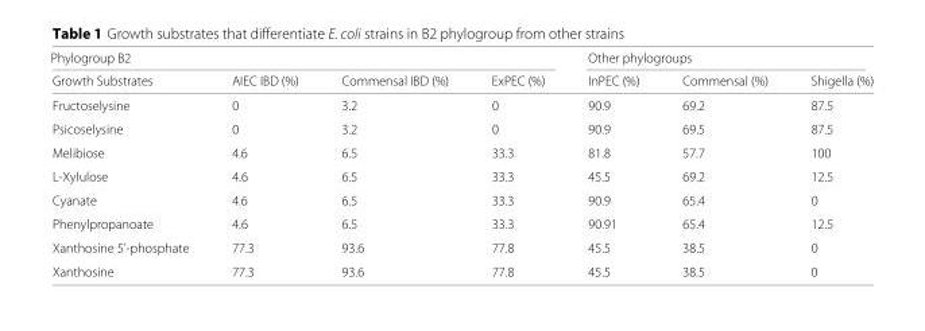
<table><thead><tr><td colspan="4">Phylogroup B2</td><td colspan="3">Other phylogroups</td></tr><tr><td>Growth Substrates</td><td>AIEC IBD (%)</td><td>Commensal IBD (%)</td><td>ExPEC (%)</td><td>InPEC (%)</td><td>Commensal (%)</td><td>Shigella (%)</td></tr></thead><tbody><tr><td>Fructoselysine</td><td>0</td><td>3.2</td><td>0</td><td>90.9</td><td>69.2</td><td>87.5</td></tr><tr><td>Psicoselysine</td><td>0</td><td>3.2</td><td>0</td><td>90.9</td><td>69.5</td><td>87.5</td></tr><tr><td>Melibiose</td><td>4.6</td><td>6.5</td><td>33.3</td><td>81.8</td><td>57.7</td><td>100</td></tr><tr><td>L-Xylulose</td><td>4.6</td><td>6.5</td><td>33.3</td><td>45.5</td><td>69.2</td><td>12.5</td></tr><tr><td>Cyanate</td><td>4.6</td><td>6.5</td><td>33.3</td><td>90.9</td><td>65.4</td><td>0</td></tr><tr><td>Phenylpropanoate</td><td>4.6</td><td>6.5</td><td>33.3</td><td>90.91</td><td>65.4</td><td>12.5</td></tr><tr><td>Xanthosine 5’-phosphate</td><td>77.3</td><td>93.6</td><td>77.8</td><td>45.5</td><td>38.5</td><td>0</td></tr><tr><td>Xanthosine</td><td>77.3</td><td>93.6</td><td>77.8</td><td>45.5</td><td>38.5</td><td>0</td></tr></tbody></table>